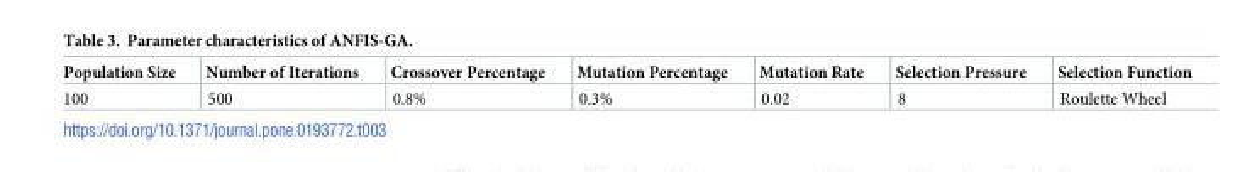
<table><thead><tr><td>Population Size</td><td>Number of Iterations</td><td>Crossover Percentage</td><td>Mutation Percentage</td><td>Mutation Rate</td><td>Selection Pressure</td><td>Selection Function</td></tr></thead><tbody><tr><td>100</td><td>500</td><td>0.8%</td><td>0.3%</td><td>0.02</td><td>8</td><td>Roulette Wheel</td></tr></tbody></table>